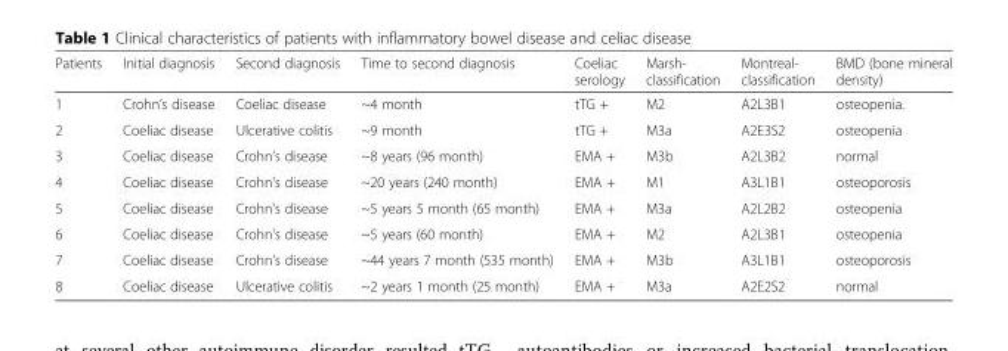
<table><thead><tr><td>Patients</td><td>Initial diagnosis</td><td>Second diagnosis</td><td>Time to second diagnosis</td><td>Coeliac serology</td><td>Marsh- classification</td><td>Montreal- classification</td><td>BMD (bone mineral density)</td></tr></thead><tbody><tr><td>1</td><td>Crohn’s disease</td><td>Coeliac disease</td><td>~4 month</td><td>tTG +</td><td>M2</td><td>A2L3B1</td><td>osteopenia.</td></tr><tr><td>2</td><td>Coeliac disease</td><td>Ulcerative colitis</td><td>~9 month</td><td>tTG +</td><td>M3a</td><td>A2E3S2</td><td>osteopenia</td></tr><tr><td>3</td><td>Coeliac disease</td><td>Crohn’s disease</td><td>~8 years (96 month)</td><td>EMA +</td><td>M3b</td><td>A2L3B2</td><td>normal</td></tr><tr><td>4</td><td>Coeliac disease</td><td>Crohn&#x27;s disease</td><td>~20 years (240 month)</td><td>EMA +</td><td>M1</td><td>A3L1B1</td><td>osteoporosis</td></tr><tr><td>5</td><td>Coeliac disease</td><td>Crohn&#x27;s disease</td><td>~5 years 5 month (65 month)</td><td>EMA +</td><td>M3a</td><td>A2L2B2</td><td>osteopenia</td></tr><tr><td>6</td><td>Coeliac disease</td><td>Crohn&#x27;s disease</td><td>~5 years (60 month)</td><td>EMA +</td><td>M2</td><td>A2L3B1</td><td>osteopenia</td></tr><tr><td>7</td><td>Coeliac disease</td><td>Crohn&#x27;s disease</td><td>~44 years 7 month (535 month)</td><td>EMA +</td><td>M3b</td><td>A3L1B1</td><td>osteoporosis</td></tr><tr><td>8</td><td>Coeliac disease</td><td>Ulcerative colitis</td><td>~2 years 1 month (25 month)</td><td>EMA +</td><td>M3a</td><td>A2E2S2</td><td>normal</td></tr></tbody></table>